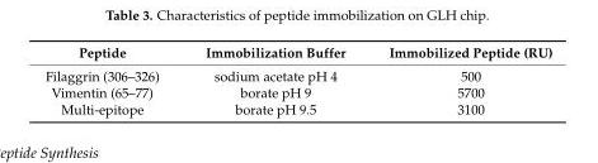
<table><thead><tr><td>Peptide</td><td>Immobilization Buffer</td><td>Immobilized Peptide (RU)</td></tr></thead><tbody><tr><td>Filaggrin (306–326)</td><td>sodium acetate pH 4</td><td>500</td></tr><tr><td>Vimentin (65–77)</td><td>borate pH 9</td><td>5700</td></tr><tr><td>Multi-epitope</td><td>borate pH 9.5</td><td>3100</td></tr></tbody></table>